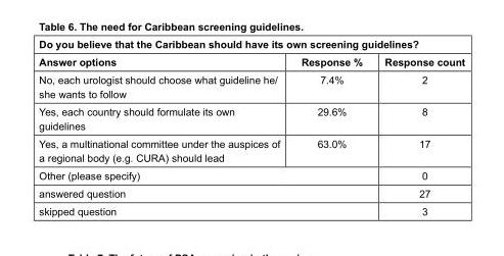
<table><thead><tr><td colspan="3">Do you believe that the Caribbean should have its own screening guidelines?</td></tr><tr><td>Answer options</td><td>Response %</td><td>Response count</td></tr></thead><tbody><tr><td>No, each urologist should choose what guideline he/ she wants to follow</td><td>7.4%</td><td>2</td></tr><tr><td>Yes, each country should formulate its own guidelines</td><td>29.6%</td><td>8</td></tr><tr><td>Yes, a multinational committee under the auspices of a regional body (e.g. CURA) should lead</td><td>63.0%</td><td>17</td></tr><tr><td colspan="2">Other (please specify)</td><td>0</td></tr><tr><td colspan="2">answered question</td><td>27</td></tr><tr><td colspan="2">skipped question</td><td>3</td></tr></tbody></table>